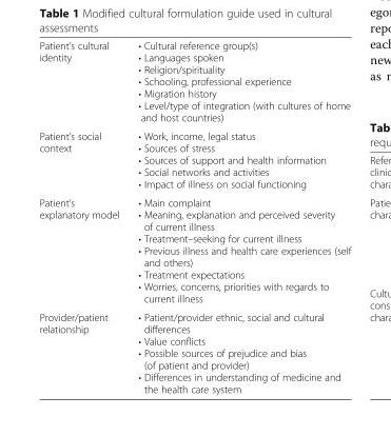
<table><tbody><tr><td>Patient’s cultural identity</td><td>• Cultural reference group(s) • Languages spoken • Religion/spirituality • Schooling, professional experience • Migration history • Level/type of integration (with cultures of home and host countries)</td></tr><tr><td>Patient’s social context</td><td>• Work, income, legal status • Sources of stress • Sources of support and health information • Social networks and activities • Impact of illness on social functioning</td></tr><tr><td>Patient’s explanatory model</td><td>• Main complaint • Meaning, explanation and perceived severity of current illness • Treatment–seeking for current illness • Previous illness and health care experiences (self and others) • Treatment expectations • Worries, concerns, priorities with regards to current illness</td></tr><tr><td>Provider/patient relationship</td><td>• Patient/provider ethnic, social and cultural differences • Value conflicts • Possible sources of prejudice and bias (of patient and provider) • Differences in understanding of medicine and the health care system</td></tr></tbody></table>